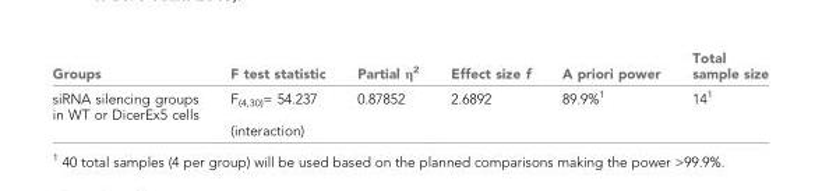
<table><thead><tr><td>Groups</td><td>F test statistic</td><td>Partial η<sup>2</sup></td><td>Effect size f</td><td>A priori power</td><td>Total sample size</td></tr></thead><tbody><tr><td>siRNA silencing groups in WT or DicerEx5 cells</td><td>F<sub>(4,30)</sub>= 54.237 (interaction)</td><td>0.87852</td><td>2.6892</td><td>89.9%<sup>1</sup></td><td>14<sup>1</sup></td></tr></tbody></table>